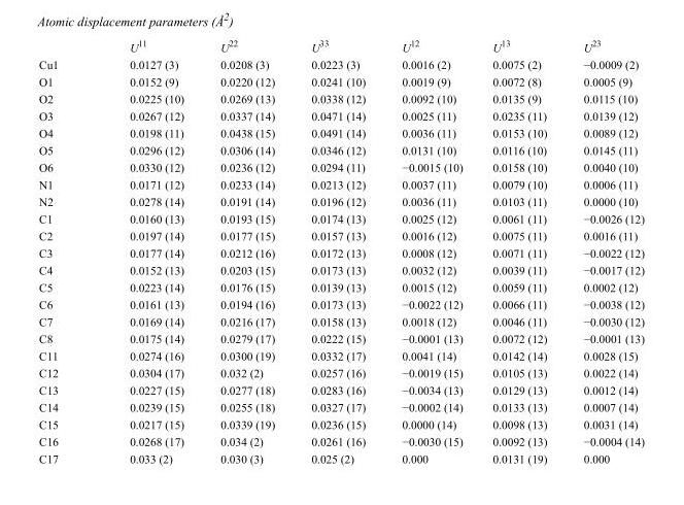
<table><thead><tr><td></td><td>U<sup>11</sup></td><td>U<sup>22</sup></td><td>U<sup>33</sup></td><td>U<sup>12</sup></td><td>U<sup>13</sup></td><td>U<sup>23</sup></td></tr></thead><tbody><tr><td>Cu1</td><td>0.0127 (3)</td><td>0.0208 (3)</td><td>0.0223 (3)</td><td>0.0016 (2)</td><td>0.0075 (2)</td><td>−0.0009 (2)</td></tr><tr><td>O1</td><td>0.0152 (9)</td><td>0.0220 (12)</td><td>0.0241 (10)</td><td>0.0019 (9)</td><td>0.0072 (8)</td><td>0.0005 (9)</td></tr><tr><td>O2</td><td>0.0225 (10)</td><td>0.0269 (13)</td><td>0.0338 (12)</td><td>0.0092 (10)</td><td>0.0135 (9)</td><td>0.0115 (10)</td></tr><tr><td>O3</td><td>0.0267 (12)</td><td>0.0337 (14)</td><td>0.0471 (14)</td><td>0.0025 (11)</td><td>0.0235 (11)</td><td>0.0139 (12)</td></tr><tr><td>O4</td><td>0.0198 (11)</td><td>0.0438 (15)</td><td>0.0491 (14)</td><td>0.0036 (11)</td><td>0.0153 (10)</td><td>0.0089 (12)</td></tr><tr><td>O5</td><td>0.0296 (12)</td><td>0.0306 (14)</td><td>0.0346 (12)</td><td>0.0131 (10)</td><td>0.0116 (10)</td><td>0.0145 (11)</td></tr><tr><td>O6</td><td>0.0330 (12)</td><td>0.0236 (12)</td><td>0.0294 (11)</td><td>−0.0015 (10)</td><td>0.0158 (10)</td><td>0.0040 (10)</td></tr><tr><td>N1</td><td>0.0171 (12)</td><td>0.0233 (14)</td><td>0.0213 (12)</td><td>0.0037 (11)</td><td>0.0079 (10)</td><td>0.0006 (11)</td></tr><tr><td>N2</td><td>0.0278 (14)</td><td>0.0191 (14)</td><td>0.0196 (12)</td><td>0.0036 (11)</td><td>0.0103 (11)</td><td>0.0000 (10)</td></tr><tr><td>C1</td><td>0.0160 (13)</td><td>0.0193 (15)</td><td>0.0174 (13)</td><td>0.0025 (12)</td><td>0.0061 (11)</td><td>−0.0026 (12)</td></tr><tr><td>C2</td><td>0.0197 (14)</td><td>0.0177 (15)</td><td>0.0157 (13)</td><td>0.0016 (12)</td><td>0.0075 (11)</td><td>0.0016 (11)</td></tr><tr><td>C3</td><td>0.0177 (14)</td><td>0.0212 (16)</td><td>0.0172 (13)</td><td>0.0008 (12)</td><td>0.0071 (11)</td><td>−0.0022 (12)</td></tr><tr><td>C4</td><td>0.0152 (13)</td><td>0.0203 (15)</td><td>0.0173 (13)</td><td>0.0032 (12)</td><td>0.0039 (11)</td><td>−0.0017 (12)</td></tr><tr><td>C5</td><td>0.0223 (14)</td><td>0.0176 (15)</td><td>0.0139 (13)</td><td>0.0015 (12)</td><td>0.0059 (11)</td><td>0.0002 (12)</td></tr><tr><td>C6</td><td>0.0161 (13)</td><td>0.0194 (16)</td><td>0.0173 (13)</td><td>−0.0022 (12)</td><td>0.0066 (11)</td><td>−0.0038 (12)</td></tr><tr><td>C7</td><td>0.0169 (14)</td><td>0.0216 (17)</td><td>0.0158 (13)</td><td>0.0018 (12)</td><td>0.0046 (11)</td><td>−0.0030 (12)</td></tr><tr><td>C8</td><td>0.0175 (14)</td><td>0.0279 (17)</td><td>0.0222 (15)</td><td>−0.0001 (13)</td><td>0.0072 (12)</td><td>−0.0001 (13)</td></tr><tr><td>C11</td><td>0.0274 (16)</td><td>0.0300 (19)</td><td>0.0332 (17)</td><td>0.0041 (14)</td><td>0.0142 (14)</td><td>0.0028 (15)</td></tr><tr><td>C12</td><td>0.0304 (17)</td><td>0.032 (2)</td><td>0.0257 (16)</td><td>−0.0019 (15)</td><td>0.0105 (13)</td><td>0.0022 (14)</td></tr><tr><td>C13</td><td>0.0227 (15)</td><td>0.0277 (18)</td><td>0.0283 (16)</td><td>−0.0034 (13)</td><td>0.0129 (13)</td><td>0.0012 (14)</td></tr><tr><td>C14</td><td>0.0239 (15)</td><td>0.0255 (18)</td><td>0.0327 (17)</td><td>−0.0002 (14)</td><td>0.0133 (13)</td><td>0.0007 (14)</td></tr><tr><td>C15</td><td>0.0217 (15)</td><td>0.0339 (19)</td><td>0.0236 (15)</td><td>0.0000 (14)</td><td>0.0098 (13)</td><td>0.0031 (14)</td></tr><tr><td>C16</td><td>0.0268 (17)</td><td>0.034 (2)</td><td>0.0261 (16)</td><td>−0.0030 (15)</td><td>0.0092 (13)</td><td>−0.0004 (14)</td></tr><tr><td>C17</td><td>0.033 (2)</td><td>0.030 (3)</td><td>0.025 (2)</td><td>0.000</td><td>0.0131 (19)</td><td>0.000</td></tr></tbody></table>